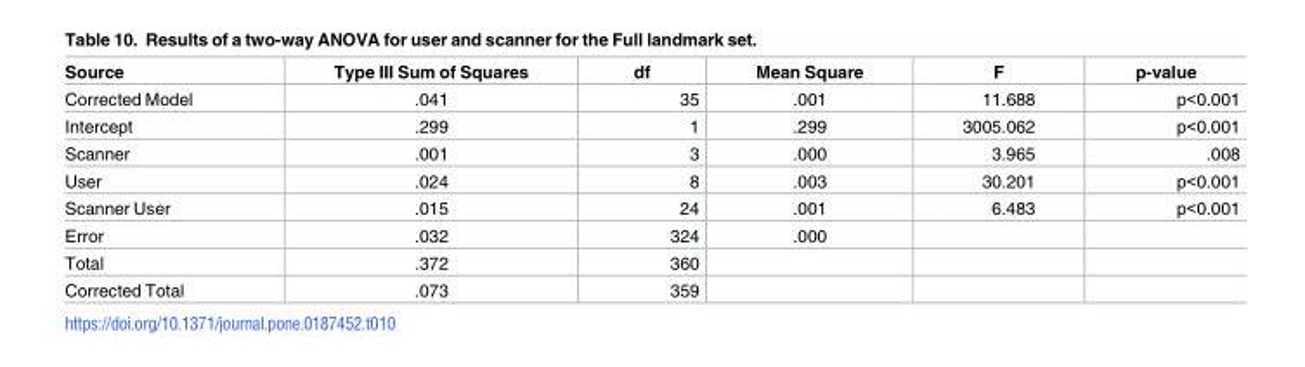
<table><thead><tr><td>Source</td><td>Type III Sum of Squares</td><td>df</td><td>Mean Square</td><td>F</td><td>p-value</td></tr></thead><tbody><tr><td>Corrected Model</td><td>.041</td><td>35</td><td>.001</td><td>11.688</td><td>p&lt;0.001</td></tr><tr><td>Intercept</td><td>.299</td><td>1</td><td>.299</td><td>3005.062</td><td>p&lt;0.001</td></tr><tr><td>Scanner</td><td>.001</td><td>3</td><td>.000</td><td>3.965</td><td>.008</td></tr><tr><td>User</td><td>.024</td><td>8</td><td>.003</td><td>30.201</td><td>p&lt;0.001</td></tr><tr><td>Scanner User</td><td>.015</td><td>24</td><td>.001</td><td>6.483</td><td>p&lt;0.001</td></tr><tr><td>Error</td><td>.032</td><td>324</td><td>.000</td><td></td><td></td></tr><tr><td>Total</td><td>.372</td><td>360</td><td></td><td></td><td></td></tr><tr><td>Corrected Total</td><td>.073</td><td>359</td><td></td><td></td><td></td></tr></tbody></table>